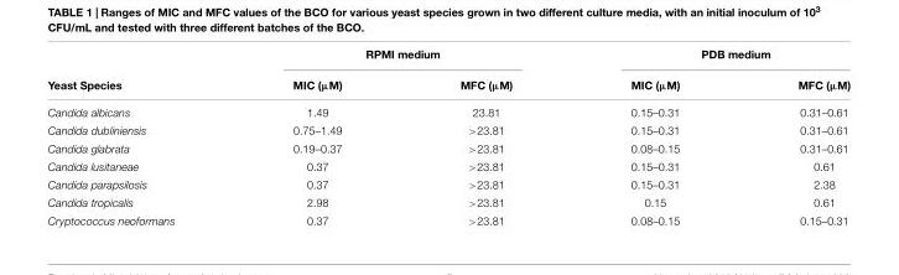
<table><thead><tr><td rowspan="2">Yeast Species</td><td colspan="2">RPMI medium</td><td colspan="2">PDB medium</td></tr><tr><td>MIC (µM)</td><td>MFC (µM)</td><td>MIC (µM)</td><td>MFC (µM)</td></tr></thead><tbody><tr><td>Candida albicans</td><td>1.49</td><td>23.81</td><td>0.15–0.31</td><td>0.31–0.61</td></tr><tr><td>Candida dubliniensis</td><td>0.75–1.49</td><td>&gt;23.81</td><td>0.15–0.31</td><td>0.31–0.61</td></tr><tr><td>Candida glabrata</td><td>0.19–0.37</td><td>&gt;23.81</td><td>0.08–0.15</td><td>0.31–0.61</td></tr><tr><td>Candida lusitaneae</td><td>0.37</td><td>&gt;23.81</td><td>0.15–0.31</td><td>0.61</td></tr><tr><td>Candida parapsilosis</td><td>0.37</td><td>&gt;23.81</td><td>0.15–0.31</td><td>2.38</td></tr><tr><td>Candida tropicalis</td><td>2.98</td><td>&gt;23.81</td><td>0.15</td><td>0.61</td></tr><tr><td>Cryptococcus neoformans</td><td>0.37</td><td>&gt;23.81</td><td>0.08–0.15</td><td>0.15–0.31</td></tr></tbody></table>